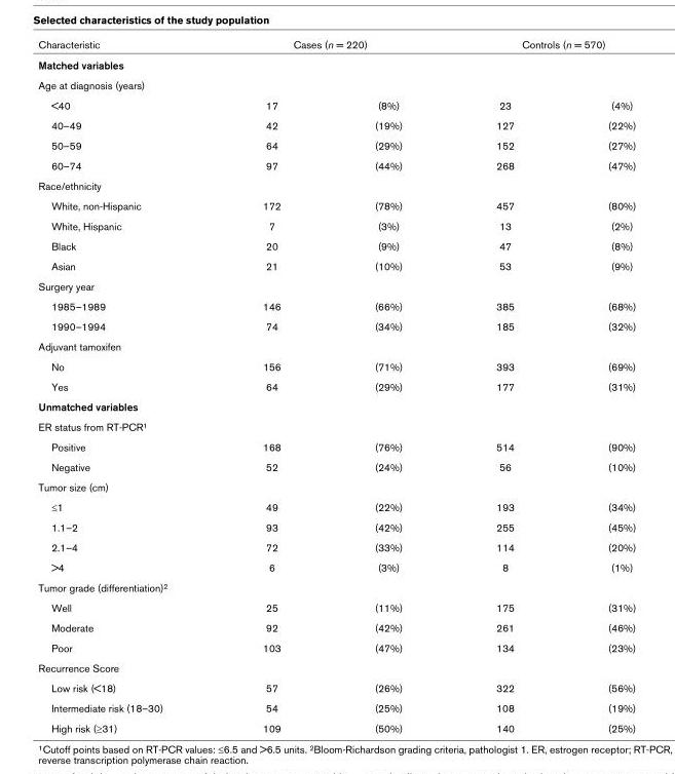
<table><thead><tr><td rowspan="2">Characteristic Matched variables</td><td colspan="2">Cases (n = 220)</td><td colspan="2">Controls (n = 570)</td></tr><tr><td></td><td></td><td></td><td></td></tr></thead><tbody><tr><td colspan="5">Age at diagnosis (years)</td></tr><tr><td>&lt;40</td><td>17</td><td>(8%)</td><td>23</td><td>(4%)</td></tr><tr><td>40–49</td><td>42</td><td>(19%)</td><td>127</td><td>(22%)</td></tr><tr><td>50–59</td><td>64</td><td>(29%)</td><td>152</td><td>(27%)</td></tr><tr><td>60–74</td><td>97</td><td>(44%)</td><td>268</td><td>(47%)</td></tr><tr><td colspan="5">Race/ethnicity</td></tr><tr><td>White, non-Hispanic</td><td>172</td><td>(78%)</td><td>457</td><td>(80%)</td></tr><tr><td>White, Hispanic</td><td>7</td><td>(3%)</td><td>13</td><td>(2%)</td></tr><tr><td>Black</td><td>20</td><td>(9%)</td><td>47</td><td>(8%)</td></tr><tr><td>Asian</td><td>21</td><td>(10%)</td><td>53</td><td>(9%)</td></tr><tr><td colspan="5">Surgery year</td></tr><tr><td>1985–1989</td><td>146</td><td>(66%)</td><td>385</td><td>(68%)</td></tr><tr><td>1990–1994</td><td>74</td><td>(34%)</td><td>185</td><td>(32%)</td></tr><tr><td colspan="5">Adjuvant tamoxifen</td></tr><tr><td>No</td><td>156</td><td>(71%)</td><td>393</td><td>(69%)</td></tr><tr><td>Yes</td><td>64</td><td>(29%)</td><td>177</td><td>(31%)</td></tr><tr><td colspan="5">Unmatched variables</td></tr><tr><td colspan="5">ER status from RT-PCR1</td></tr><tr><td>Positive</td><td>168</td><td>(76%)</td><td>514</td><td>(90%)</td></tr><tr><td>Negative</td><td>52</td><td>(24%)</td><td>56</td><td>(10%)</td></tr><tr><td colspan="5">Tumor size (cm)</td></tr><tr><td>≤1</td><td>49</td><td>(22%)</td><td>193</td><td>(34%)</td></tr><tr><td>1.1–2</td><td>93</td><td>(42%)</td><td>255</td><td>(45%)</td></tr><tr><td>2.1–4</td><td>72</td><td>(33%)</td><td>114</td><td>(20%)</td></tr><tr><td>&gt;4</td><td>6</td><td>(3%)</td><td>8</td><td>(1%)</td></tr><tr><td colspan="5">Tumor grade (differentiation)2</td></tr><tr><td>Well</td><td>25</td><td>(11%)</td><td>175</td><td>(31%)</td></tr><tr><td>Moderate</td><td>92</td><td>(42%)</td><td>261</td><td>(46%)</td></tr><tr><td>Poor</td><td>103</td><td>(47%)</td><td>134</td><td>(23%)</td></tr><tr><td colspan="5">Recurrence Score</td></tr><tr><td>Low risk (&lt;18)</td><td>57</td><td>(26%)</td><td>322</td><td>(56%)</td></tr><tr><td>Intermediate risk (18–30)</td><td>54</td><td>(25%)</td><td>108</td><td>(19%)</td></tr><tr><td>High risk (≥31)</td><td>109</td><td>(50%)</td><td>140</td><td>(25%)</td></tr></tbody></table>